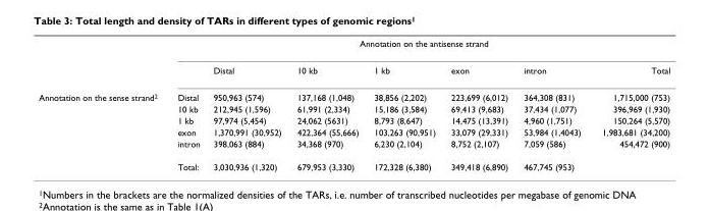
<table><thead><tr><td rowspan="2"></td><td colspan="7">Annotation on the antisense strand</td></tr><tr><td></td><td>Distal</td><td>10 kb</td><td>1 kb</td><td>exon</td><td>intron</td><td>Total</td></tr></thead><tbody><tr><td rowspan="6">Annotation on the sense strand2</td><td>Distal</td><td>950,963 (574)</td><td>137,168 (1,048)</td><td>38,856 (2,202)</td><td>223,699 (6,012)</td><td>364,308 (831)</td><td>1,715,000 (753)</td></tr><tr><td>10 kb</td><td>212,945 (1,596)</td><td>61,991 (2,334)</td><td>15,186 (3,584)</td><td>69,413 (9,683)</td><td>37,434 (1,077)</td><td>396,969 (1,930)</td></tr><tr><td>1 kb</td><td>97,974 (5,454)</td><td>24,062 (5631)</td><td>8,793 (8,647)</td><td>14,475 (13,391)</td><td>4,960 (1,751)</td><td>150,264 (5,570)</td></tr><tr><td>exon</td><td>1,370,991 (30,952)</td><td>422,364 (55,666)</td><td>103,263 (90,951)</td><td>33,079 (29,331)</td><td>53,984 (1,4043)</td><td>1,983,681 (34,200)</td></tr><tr><td>intron</td><td>398,063 (884)</td><td>34,368 (970)</td><td>6,230 (2,104)</td><td>8,752 (2,107)</td><td>7,059 (586)</td><td>454,472 (900)</td></tr><tr><td>Total:</td><td>3,030,936 (1,320)</td><td>679,953 (3,330)</td><td>172,328 (6,380)</td><td>349,418 (6,890)</td><td>467,745 (953)</td><td></td></tr></tbody></table>